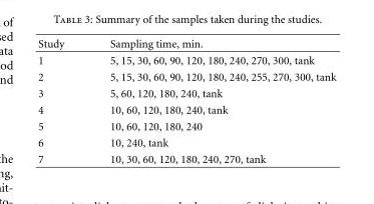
<table><thead><tr><td>Study</td><td>Sampling time, min.</td></tr></thead><tbody><tr><td>1</td><td>5, 15, 30, 60, 90, 120, 180, 240, 270, 300, tank</td></tr><tr><td>2</td><td>5, 15, 30, 60, 90, 120, 180, 240, 255, 270, 300, tank</td></tr><tr><td>3</td><td>5, 60, 120, 180, 240, tank</td></tr><tr><td>4</td><td>10, 60, 120, 180, 240, tank</td></tr><tr><td>5</td><td>10, 60, 120, 180, 240</td></tr><tr><td>6</td><td>10, 240, tank</td></tr><tr><td>7</td><td>10, 30, 60, 120, 180, 240, 270, tank</td></tr></tbody></table>